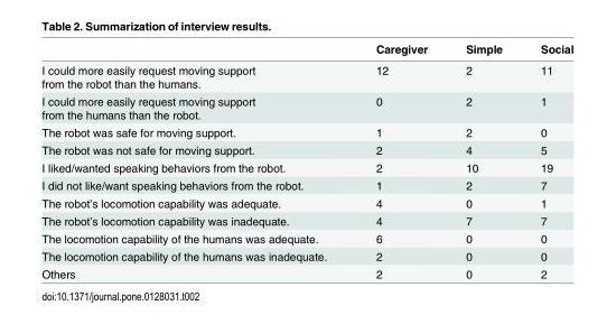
<table><thead><tr><td></td><td>Caregiver</td><td>Simple</td><td>Social</td></tr></thead><tbody><tr><td>I could more easily request moving support from the robot than the humans.</td><td>12</td><td>2</td><td>11</td></tr><tr><td>I could more easily request moving support from the humans than the robot.</td><td>0</td><td>2</td><td>1</td></tr><tr><td>The robot was safe for moving support.</td><td>1</td><td>2</td><td>0</td></tr><tr><td>The robot was not safe for moving support.</td><td>2</td><td>4</td><td>5</td></tr><tr><td>I liked/wanted speaking behaviors from the robot.</td><td>2</td><td>10</td><td>19</td></tr><tr><td>I did not like/want speaking behaviors from the robot.</td><td>1</td><td>2</td><td>7</td></tr><tr><td>The robot’s locomotion capability was adequate.</td><td>4</td><td>0</td><td>1</td></tr><tr><td>The robot’s locomotion capability was inadequate.</td><td>4</td><td>7</td><td>7</td></tr><tr><td>The locomotion capability of the humans was adequate.</td><td>6</td><td>0</td><td>0</td></tr><tr><td>The locomotion capability of the humans was inadequate.</td><td>2</td><td>0</td><td>0</td></tr><tr><td>Others</td><td>2</td><td>0</td><td>2</td></tr></tbody></table>